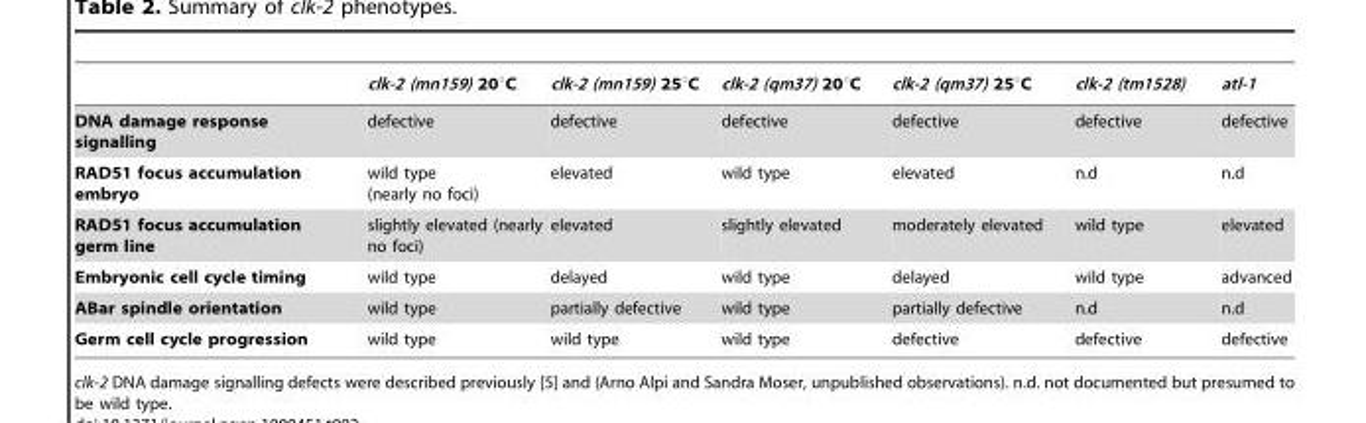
<table><thead><tr><td></td><td>clk-2 (mn159) 20°C</td><td>clk-2 (mn159) 25°C</td><td>clk-2 (qm37) 20°C</td><td>clk-2 (qm37) 25°C</td><td>clk-2 (tm1528)</td><td>atl-1</td></tr></thead><tbody><tr><td>DNA damage response signalling</td><td>defective</td><td>defective</td><td>defective</td><td>defective</td><td>defective</td><td>defective</td></tr><tr><td>RAD51 focus accumulation embryo</td><td>wild type (nearly no foci)</td><td>elevated</td><td>wild type</td><td>elevated</td><td>n.d</td><td>n.d</td></tr><tr><td>RAD51 focus accumulation germ line</td><td>slightly elevated (nearly no foci)</td><td>elevated</td><td>slightly elevated</td><td>moderately elevated</td><td>wild type</td><td>elevated</td></tr><tr><td>Embryonic cell cycle timing</td><td>wild type</td><td>delayed</td><td>wild type</td><td>delayed</td><td>wild type</td><td>advanced</td></tr><tr><td>ABar spindle orientation</td><td>wild type</td><td>partially defective</td><td>wild type</td><td>partially defective</td><td>n.d</td><td>n.d</td></tr><tr><td>Germ cell cycle progression</td><td>wild type</td><td>wild type</td><td>wild type</td><td>defective</td><td>defective</td><td>defective</td></tr></tbody></table>